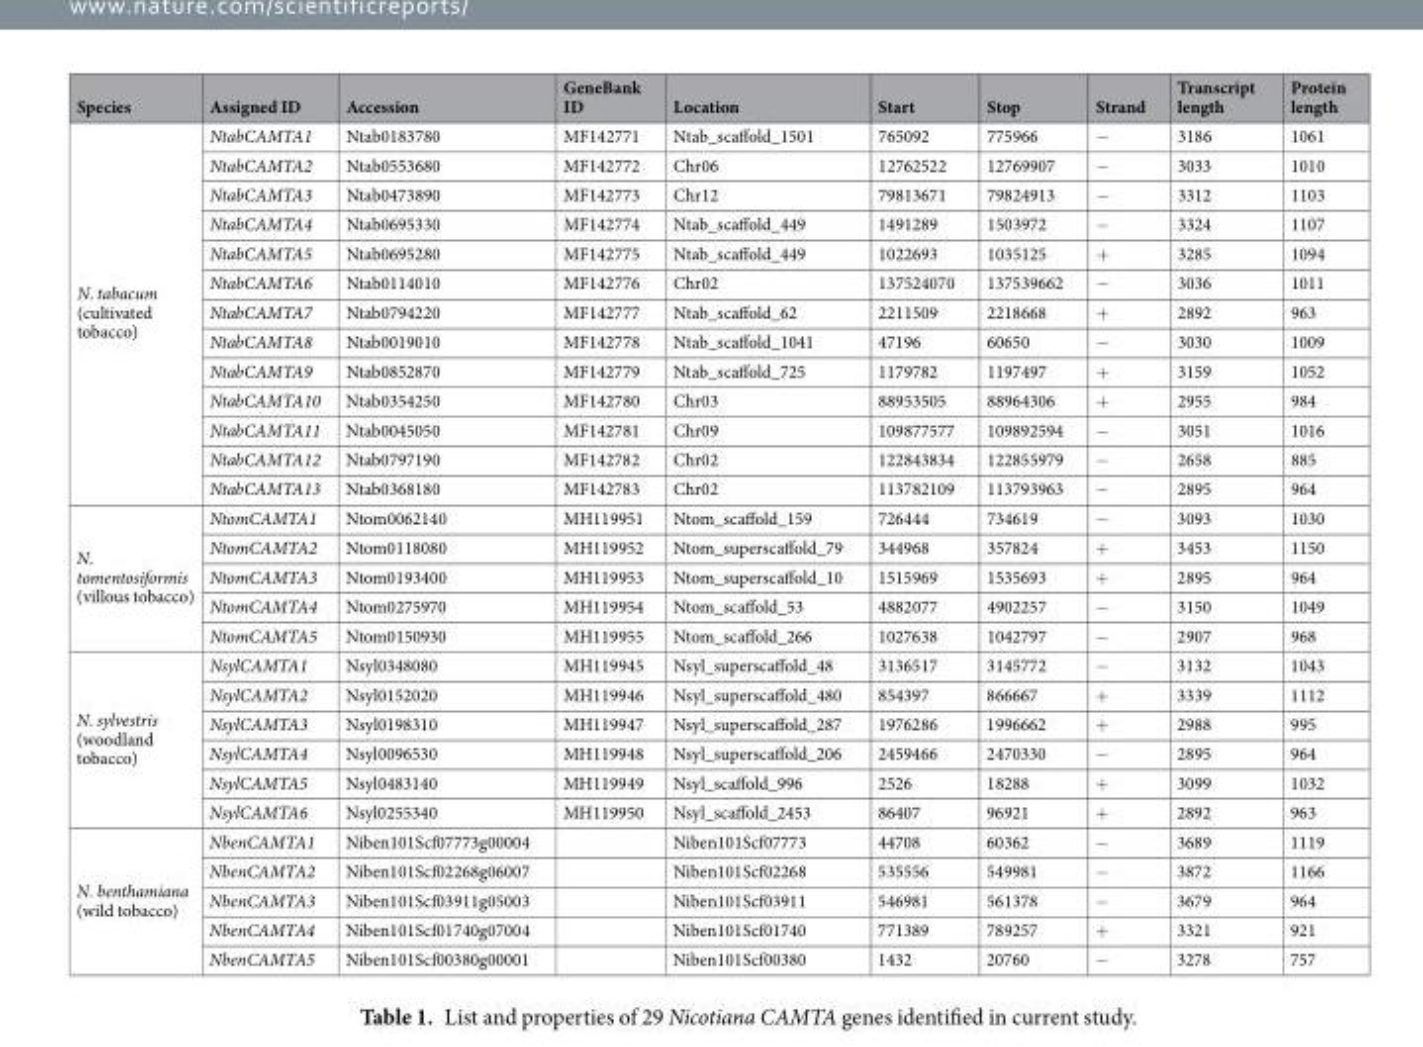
<table><thead><tr><td>Species</td><td>Assigned ID</td><td>Accession</td><td>GeneBank ID</td><td>Location</td><td>Start</td><td>Stop</td><td>Strand</td><td>Transcript length</td><td>Protein length</td></tr></thead><tbody><tr><td rowspan="13">N. tabacum (cultivated tobacco)</td><td>NtabCAMTA1</td><td>Ntab0183780</td><td>MF142771</td><td>Ntab_scaffold_1501</td><td>765092</td><td>775966</td><td>−</td><td>3186</td><td>1061</td></tr><tr><td>NtabCAMTA2</td><td>Ntab0553680</td><td>MF142772</td><td>Chr06</td><td>12762522</td><td>12769907</td><td>−</td><td>3033</td><td>1010</td></tr><tr><td>NtabCAMTA3</td><td>Ntab0473890</td><td>MF142773</td><td>Chr12</td><td>79813671</td><td>79824913</td><td>−</td><td>3312</td><td>1103</td></tr><tr><td>NtabCAMTA4</td><td>Ntab0695330</td><td>MF142774</td><td>Ntab_scaffold_449</td><td>1491289</td><td>1503972</td><td>−</td><td>3324</td><td>1107</td></tr><tr><td>NtabCAMTA5</td><td>Ntab0695280</td><td>MF142775</td><td>Ntab_scaffold_449</td><td>1022693</td><td>1035125</td><td>+</td><td>3285</td><td>1094</td></tr><tr><td>NtabCAMTA6</td><td>Ntab0114010</td><td>MF142776</td><td>Chr02</td><td>137524070</td><td>137539662</td><td>−</td><td>3036</td><td>1011</td></tr><tr><td>NtabCAMTA7</td><td>Ntab0794220</td><td>MF142777</td><td>Ntab_scaffold_62</td><td>2211509</td><td>2218668</td><td>+</td><td>2892</td><td>963</td></tr><tr><td>NtabCAMTA8</td><td>Ntab0019010</td><td>MF142778</td><td>Ntab_scaffold_1041</td><td>47196</td><td>60650</td><td>−</td><td>3030</td><td>1009</td></tr><tr><td>NtabCAMTA9</td><td>Ntab0852870</td><td>MF142779</td><td>Ntab_scaffold_725</td><td>1179782</td><td>1197497</td><td>+</td><td>3159</td><td>1052</td></tr><tr><td>NtabCAMTA10</td><td>Ntab0354250</td><td>MF142780</td><td>Chr03</td><td>88953505</td><td>88964306</td><td>+</td><td>2955</td><td>984</td></tr><tr><td>NtabCAMTA11</td><td>Ntab0045050</td><td>MF142781</td><td>Chr09</td><td>109877577</td><td>109892594</td><td>−</td><td>3051</td><td>1016</td></tr><tr><td>NtabCAMTA12</td><td>Ntab0797190</td><td>MF142782</td><td>Chr02</td><td>122843834</td><td>122855979</td><td>−</td><td>2658</td><td>885</td></tr><tr><td>NtabCAMTA13</td><td>Ntab0368180</td><td>MF142783</td><td>Chr02</td><td>113782109</td><td>113793963</td><td>−</td><td>2895</td><td>964</td></tr><tr><td rowspan="5">N. tomentosiformis (villous tobacco)</td><td>NtomCAMTA1</td><td>Ntom0062140</td><td>MH119951</td><td>Ntom_scaffold_159</td><td>726444</td><td>734619</td><td>−</td><td>3093</td><td>1030</td></tr><tr><td>NtomCAMTA2</td><td>Ntom0118080</td><td>MH119952</td><td>Ntom_superscaffold_79</td><td>344968</td><td>357824</td><td>+</td><td>3453</td><td>1150</td></tr><tr><td>NtomCAMTA3</td><td>Ntom0193400</td><td>MH119953</td><td>Ntom_superscaffold_10</td><td>1515969</td><td>1535693</td><td>+</td><td>2895</td><td>964</td></tr><tr><td>NtomCAMTA4</td><td>Ntom0275970</td><td>MH119954</td><td>Ntom_scaffold_53</td><td>4882077</td><td>4902257</td><td>−</td><td>3150</td><td>1049</td></tr><tr><td>NtomCAMTA5</td><td>Ntom0150930</td><td>MH119955</td><td>Ntom_scaffold_266</td><td>1027638</td><td>1042797</td><td>−</td><td>2907</td><td>968</td></tr><tr><td rowspan="6">N. sylvestris (woodland tobacco)</td><td>NsylCAMTA1</td><td>Nsyl0348080</td><td>MH119945</td><td>Nsyl_superscaffold_48</td><td>3136517</td><td>3145772</td><td>−</td><td>3132</td><td>1043</td></tr><tr><td>NsylCAMTA2</td><td>Nsyl0152020</td><td>MH119946</td><td>Nsyl_superscaffold_480</td><td>854397</td><td>866667</td><td>+</td><td>3339</td><td>1112</td></tr><tr><td>NsylCAMTA3</td><td>Nsyl0198310</td><td>MH119947</td><td>Nsyl_superscaffold_287</td><td>1976286</td><td>1996662</td><td>+</td><td>2988</td><td>995</td></tr><tr><td>NsylCAMTA4</td><td>Nsyl0096530</td><td>MH119948</td><td>Nsyl_superscaffold_206</td><td>2459466</td><td>2470330</td><td>−</td><td>2895</td><td>964</td></tr><tr><td>NsylCAMTA5</td><td>Nsyl0483140</td><td>MH119949</td><td>Nsyl_scaffold_996</td><td>2526</td><td>18288</td><td>+</td><td>3099</td><td>1032</td></tr><tr><td>NsylCAMTA6</td><td>Nsyl0255340</td><td>MH119950</td><td>Nsyl_scaffold_2453</td><td>86407</td><td>96921</td><td>+</td><td>2892</td><td>963</td></tr><tr><td rowspan="5">N. benthamiana (wild tobacco)</td><td>NbenCAMTA1</td><td>Niben101Scf07773g00004</td><td></td><td>Niben101Scf07773</td><td>44708</td><td>60362</td><td>−</td><td>3689</td><td>1119</td></tr><tr><td>NbenCAMTA2</td><td>Niben101Scf02268g06007</td><td></td><td>Niben101Scf02268</td><td>535556</td><td>549981</td><td>−</td><td>3872</td><td>1166</td></tr><tr><td>NbenCAMTA3</td><td>Niben101Scf03911g05003</td><td></td><td>Niben101Scf03911</td><td>546981</td><td>561378</td><td>−</td><td>3679</td><td>964</td></tr><tr><td>NbenCAMTA4</td><td>Niben101Scf01740g07004</td><td></td><td>Niben101Scf01740</td><td>771389</td><td>789257</td><td>+</td><td>3321</td><td>921</td></tr><tr><td>NbenCAMTA5</td><td>Niben101Scf00380g00001</td><td></td><td>Niben101Scf00380</td><td>1432</td><td>20760</td><td>−</td><td>3278</td><td>757</td></tr></tbody></table>